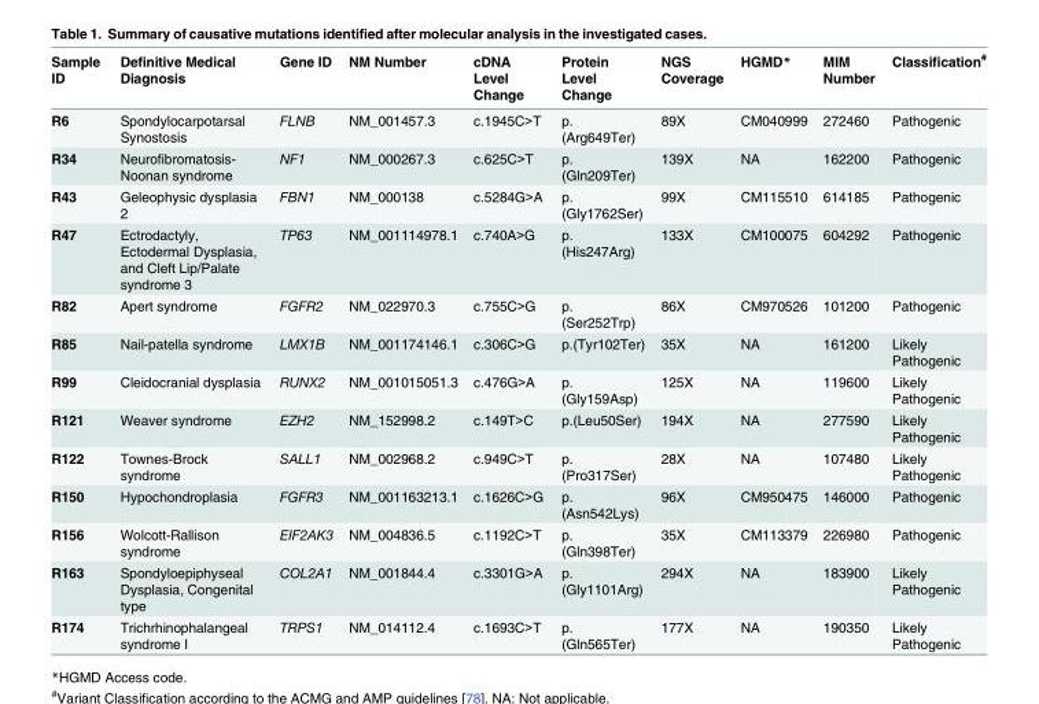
<table><thead><tr><td>Sample ID</td><td>Definitive Medical Diagnosis</td><td>Gene ID</td><td>NM Number</td><td>cDNA Level Change</td><td>Protein Level Change</td><td>NGS Coverage</td><td>HGMD*</td><td>MIM Number</td><td>Classification<sup>#</sup></td></tr></thead><tbody><tr><td>R6</td><td>Spondylocarpotarsal Synostosis</td><td>FLNB</td><td>NM_001457.3</td><td>c.1945C&gt;T</td><td>p. (Arg649Ter)</td><td>89X</td><td>CM040999</td><td>272460</td><td>Pathogenic</td></tr><tr><td>R34</td><td>Neurofibromatosis- Noonan syndrome</td><td>NF1</td><td>NM_000267.3</td><td>c.625C&gt;T</td><td>p. (Gln209Ter)</td><td>139X</td><td>NA</td><td>162200</td><td>Pathogenic</td></tr><tr><td>R43</td><td>Geleophysic dysplasia 2</td><td>FBN1</td><td>NM_000138</td><td>c.5284G&gt;A</td><td>p. (Gly1762Ser)</td><td>99X</td><td>CM115510</td><td>614185</td><td>Pathogenic</td></tr><tr><td>R47</td><td>Ectrodactyly, Ectodermal Dysplasia, and Cleft Lip/Palate syndrome 3</td><td>TP63</td><td>NM_001114978.1</td><td>c.740A&gt;G</td><td>p. (His247Arg)</td><td>133X</td><td>CM100075</td><td>604292</td><td>Pathogenic</td></tr><tr><td>R82</td><td>Apert syndrome</td><td>FGFR2</td><td>NM_022970.3</td><td>c.755C&gt;G</td><td>p. (Ser252Trp)</td><td>86X</td><td>CM970526</td><td>101200</td><td>Pathogenic</td></tr><tr><td>R85</td><td>Nail-patella syndrome</td><td>LMX1B</td><td>NM_001174146.1</td><td>c.306C&gt;G</td><td>p.(Tyr102Ter)</td><td>35X</td><td>NA</td><td>161200</td><td>Likely Pathogenic</td></tr><tr><td>R99</td><td>Cleidocranial dysplasia</td><td>RUNX2</td><td>NM_001015051.3</td><td>c.476G&gt;A</td><td>p. (Gly159Asp)</td><td>125X</td><td>NA</td><td>119600</td><td>Likely Pathogenic</td></tr><tr><td>R121</td><td>Weaver syndrome</td><td>EZH2</td><td>NM_152998.2</td><td>c.149T&gt;C</td><td>p.(Leu50Ser)</td><td>194X</td><td>NA</td><td>277590</td><td>Likely Pathogenic</td></tr><tr><td>R122</td><td>Townes-Brock syndrome</td><td>SALL1</td><td>NM_002968.2</td><td>c.949C&gt;T</td><td>p. (Pro317Ser)</td><td>28X</td><td>NA</td><td>107480</td><td>Likely Pathogenic</td></tr><tr><td>R150</td><td>Hypochondroplasia</td><td>FGFR3</td><td>NM_001163213.1</td><td>c.1626C&gt;G</td><td>p. (Asn542Lys)</td><td>96X</td><td>CM950475</td><td>146000</td><td>Pathogenic</td></tr><tr><td>R156</td><td>Wolcott-Rallison syndrome</td><td>EIF2AK3</td><td>NM_004836.5</td><td>c.1192C&gt;T</td><td>p. (Gln398Ter)</td><td>35X</td><td>CM113379</td><td>226980</td><td>Pathogenic</td></tr><tr><td>R163</td><td>Spondyloepiphyseal Dysplasia, Congenital type</td><td>COL2A1</td><td>NM_001844.4</td><td>c.3301G&gt;A</td><td>p. (Gly1101Arg)</td><td>294X</td><td>NA</td><td>183900</td><td>Likely Pathogenic</td></tr><tr><td>R174</td><td>Trichrhinophalangeal syndrome I</td><td>TRPS1</td><td>NM_014112.4</td><td>c.1693C&gt;T</td><td>p. (Gln565Ter)</td><td>177X</td><td>NA</td><td>190350</td><td>Likely Pathogenic</td></tr></tbody></table>